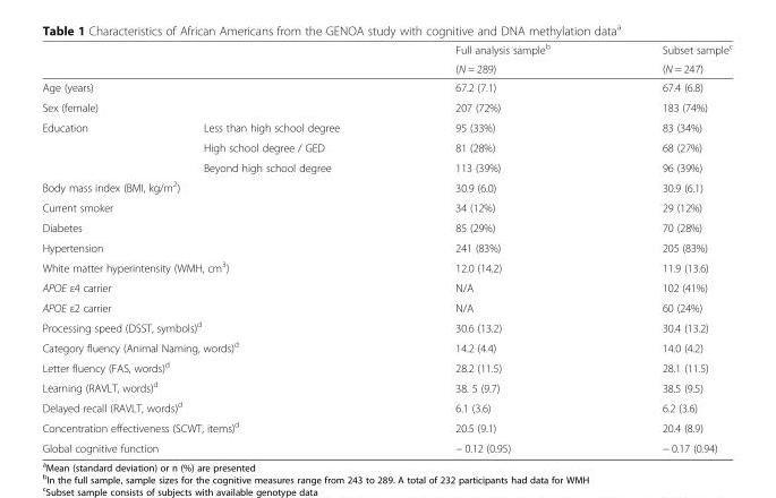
<table><thead><tr><td rowspan="2"></td><td rowspan="2"></td><td rowspan="2">Full analysis sample<sup>b</sup> (N = 289)</td><td rowspan="2">Subset sample<sup>c</sup> (N = 247)</td></tr><tr></tr></thead><tbody><tr><td colspan="2">Age (years)</td><td>67.2 (7.1)</td><td>67.4 (6.8)</td></tr><tr><td colspan="2">Sex (female)</td><td>207 (72%)</td><td>183 (74%)</td></tr><tr><td rowspan="3">Education</td><td>Less than high school degree</td><td>95 (33%)</td><td>83 (34%)</td></tr><tr><td>High school degree / GED</td><td>81 (28%)</td><td>68 (27%)</td></tr><tr><td>Beyond high school degree</td><td>113 (39%)</td><td>96 (39%)</td></tr><tr><td colspan="2">Body mass index (BMI, kg/m<sup>2</sup>)</td><td>30.9 (6.0)</td><td>30.9 (6.1)</td></tr><tr><td colspan="2">Current smoker</td><td>34 (12%)</td><td>29 (12%)</td></tr><tr><td colspan="2">Diabetes</td><td>85 (29%)</td><td>70 (28%)</td></tr><tr><td colspan="2">Hypertension</td><td>241 (83%)</td><td>205 (83%)</td></tr><tr><td colspan="2">White matter hyperintensity (WMH, cm<sup>3</sup>)</td><td>12.0 (14.2)</td><td>11.9 (13.6)</td></tr><tr><td colspan="2">APOE ε4 carrier</td><td>N/A</td><td>102 (41%)</td></tr><tr><td colspan="2">APOE ε2 carrier</td><td>N/A</td><td>60 (24%)</td></tr><tr><td colspan="2">Processing speed (DSST, symbols)<sup>d</sup></td><td>30.6 (13.2)</td><td>30.4 (13.2)</td></tr><tr><td colspan="2">Category fluency (Animal Naming, words)<sup>d</sup></td><td>14.2 (4.4)</td><td>14.0 (4.2)</td></tr><tr><td colspan="2">Letter fluency (FAS, words)<sup>d</sup></td><td>28.2 (11.5)</td><td>28.1 (11.5)</td></tr><tr><td colspan="2">Learning (RAVLT, words)<sup>d</sup></td><td>38. 5 (9.7)</td><td>38.5 (9.5)</td></tr><tr><td colspan="2">Delayed recall (RAVLT, words)<sup>d</sup></td><td>6.1 (3.6)</td><td>6.2 (3.6)</td></tr><tr><td colspan="2">Concentration effectiveness (SCWT, items)<sup>d</sup></td><td>20.5 (9.1)</td><td>20.4 (8.9)</td></tr><tr><td colspan="2">Global cognitive function</td><td>− 0.12 (0.95)</td><td>− 0.17 (0.94)</td></tr></tbody></table>